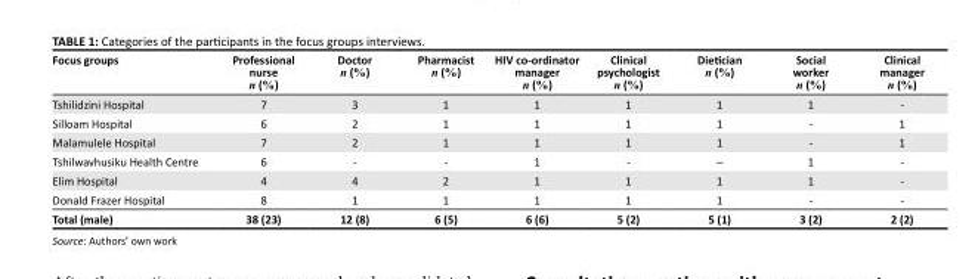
<table><thead><tr><td>Focus groups</td><td>Professional nurse n (%)</td><td>Doctor n (%)</td><td>Pharmacist n (%)</td><td>HIV co-ordinator manager n (%)</td><td>Clinical psychologist n (%)</td><td>Dietician n (%)</td><td>Social worker n (%)</td><td>Clinical manager n (%)</td></tr></thead><tbody><tr><td>Tshilidzini Hospital</td><td>7</td><td>3</td><td>1</td><td>1</td><td>1</td><td>1</td><td>1</td><td>-</td></tr><tr><td>Silloam Hospital</td><td>6</td><td>2</td><td>1</td><td>1</td><td>1</td><td>1</td><td>-</td><td>1</td></tr><tr><td>Malamulele Hospital</td><td>7</td><td>2</td><td>1</td><td>1</td><td>1</td><td>1</td><td>-</td><td>1</td></tr><tr><td>Tshilwavhusiku Health Centre</td><td>6</td><td>-</td><td>-</td><td>1</td><td>-</td><td>–</td><td>1</td><td>-</td></tr><tr><td>Elim Hospital</td><td>4</td><td>4</td><td>2</td><td>1</td><td>1</td><td>1</td><td>1</td><td>-</td></tr><tr><td>Donald Frazer Hospital</td><td>8</td><td>1</td><td>1</td><td>1</td><td>1</td><td>1</td><td>-</td><td>-</td></tr><tr><td>Total (male)</td><td>38 (23)</td><td>12 (8)</td><td>6 (5)</td><td>6 (6)</td><td>5 (2)</td><td>5 (1)</td><td>3 (2)</td><td>2 (2)</td></tr></tbody></table>